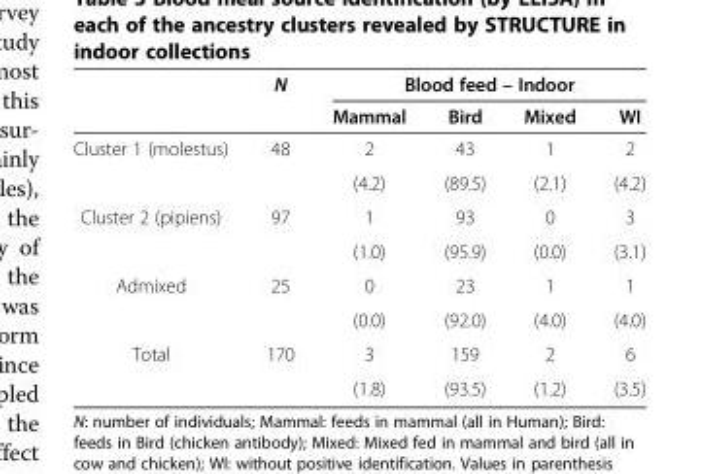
<table><thead><tr><td rowspan="2"></td><td rowspan="2">N</td><td colspan="4">Blood feed – Indoor</td></tr><tr><td>Mammal</td><td>Bird</td><td>Mixed</td><td>WI</td></tr></thead><tbody><tr><td rowspan="2">Cluster 1 (molestus)</td><td rowspan="2">48</td><td>2</td><td>43</td><td>1</td><td>2</td></tr><tr><td>(4.2)</td><td>(89.5)</td><td>(2.1)</td><td>(4.2)</td></tr><tr><td rowspan="2">Cluster 2 (pipiens)</td><td rowspan="2">97</td><td>1</td><td>93</td><td>0</td><td>3</td></tr><tr><td>(1.0)</td><td>(95.9)</td><td>(0.0)</td><td>(3.1)</td></tr><tr><td rowspan="2">Admixed</td><td rowspan="2">25</td><td>0</td><td>23</td><td>1</td><td>1</td></tr><tr><td>(0.0)</td><td>(92.0)</td><td>(4.0)</td><td>(4.0)</td></tr><tr><td rowspan="2">Total</td><td>170</td><td>3</td><td>159</td><td>2</td><td>6</td></tr><tr><td></td><td>(1.8)</td><td>(93.5)</td><td>(1.2)</td><td>(3.5)</td></tr></tbody></table>